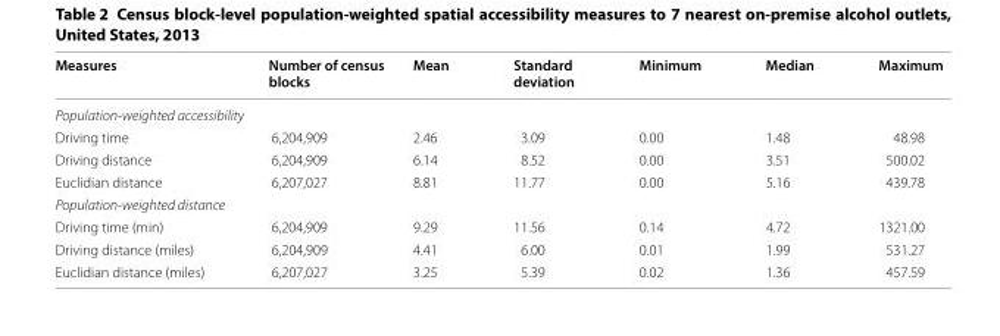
<table><thead><tr><td>Measures</td><td>Number of census blocks</td><td>Mean</td><td>Standard deviation</td><td>Minimum</td><td>Median</td><td>Maximum</td></tr></thead><tbody><tr><td colspan="7">Population-weighted accessibility</td></tr><tr><td>Driving time</td><td>6,204,909</td><td>2.46</td><td>3.09</td><td>0.00</td><td>1.48</td><td>48.98</td></tr><tr><td>Driving distance</td><td>6,204,909</td><td>6.14</td><td>8.52</td><td>0.00</td><td>3.51</td><td>500.02</td></tr><tr><td>Euclidian distance</td><td>6,207,027</td><td>8.81</td><td>11.77</td><td>0.00</td><td>5.16</td><td>439.78</td></tr><tr><td colspan="7">Population-weighted distance</td></tr><tr><td>Driving time (min)</td><td>6,204,909</td><td>9.29</td><td>11.56</td><td>0.14</td><td>4.72</td><td>1321.00</td></tr><tr><td>Driving distance (miles)</td><td>6,204,909</td><td>4.41</td><td>6.00</td><td>0.01</td><td>1.99</td><td>531.27</td></tr><tr><td>Euclidian distance (miles)</td><td>6,207,027</td><td>3.25</td><td>5.39</td><td>0.02</td><td>1.36</td><td>457.59</td></tr></tbody></table>